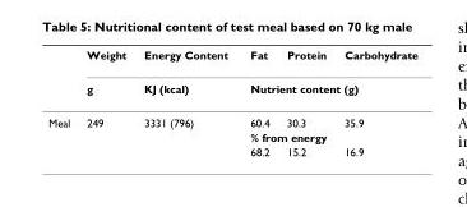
<table><thead><tr><td rowspan="2"></td><td rowspan="2">Weight g</td><td rowspan="2">Energy Content KJ (kcal)</td><td>Fat</td><td>Protein</td><td>Carbohydrate</td></tr><tr><td colspan="3">Nutrient content (g)</td></tr></thead><tbody><tr><td rowspan="3">Meal</td><td>249</td><td>3331 (796)</td><td>60.4</td><td>30.3</td><td>35.9</td></tr><tr><td></td><td></td><td colspan="3">% from energy</td></tr><tr><td></td><td></td><td>68.2</td><td>15.2</td><td>16.9</td></tr></tbody></table>